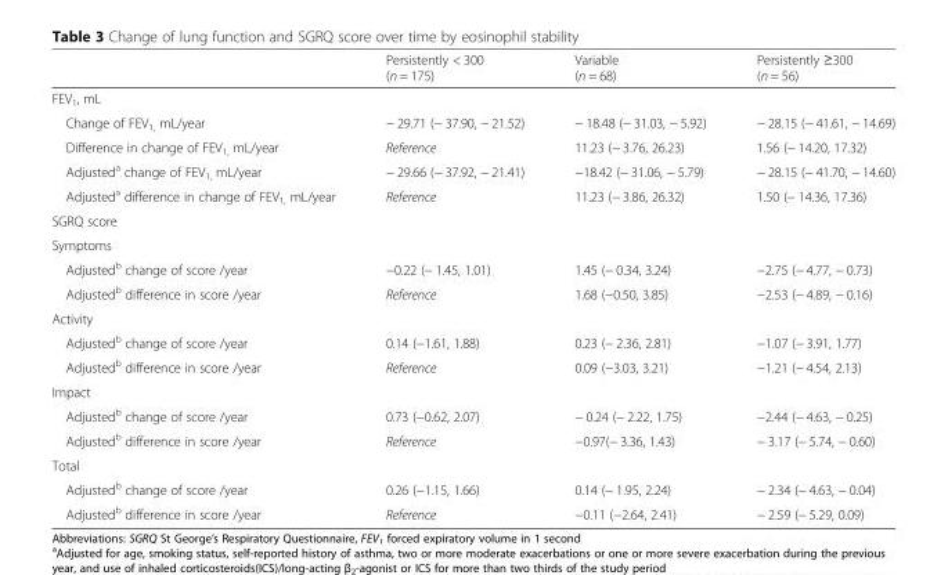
<table><thead><tr><td></td><td>Persistently &lt; 300 (n = 175)</td><td>Variable (n = 68)</td><td>Persistently ≥300 (n = 56)</td></tr></thead><tbody><tr><td colspan="4">FEV<sub>1</sub>, mL</td></tr><tr><td>Change of FEV<sub>1,</sub> mL/year</td><td>− 29.71 (− 37.90, − 21.52)</td><td>− 18.48 (− 31.03, − 5.92)</td><td>− 28.15 (− 41.61, − 14.69)</td></tr><tr><td>Difference in change of FEV<sub>1,</sub> mL/year</td><td>Reference</td><td>11.23 (− 3.76, 26.23)</td><td>1.56 (− 14.20, 17.32)</td></tr><tr><td>Adjusted<sup>a</sup> change of FEV<sub>1,</sub> mL/year</td><td>− 29.66 (− 37.92, − 21.41)</td><td>−18.42 (− 31.06, − 5.79)</td><td>− 28.15 (− 41.70, − 14.60)</td></tr><tr><td>Adjusted<sup>a</sup> difference in change of FEV<sub>1,</sub> mL/year</td><td>Reference</td><td>11.23 (− 3.86, 26.32)</td><td>1.50 (− 14.36, 17.36)</td></tr><tr><td colspan="4">SGRQ score</td></tr><tr><td colspan="4">Symptoms</td></tr><tr><td>Adjusted<sup>b</sup> change of score /year</td><td>−0.22 (− 1.45, 1.01)</td><td>1.45 (− 0.34, 3.24)</td><td>−2.75 (− 4.77, − 0.73)</td></tr><tr><td>Adjusted<sup>b</sup> difference in score /year</td><td>Reference</td><td>1.68 (−0.50, 3.85)</td><td>−2.53 (− 4.89, − 0.16)</td></tr><tr><td colspan="4">Activity</td></tr><tr><td>Adjusted<sup>b</sup> change of score /year</td><td>0.14 (−1.61, 1.88)</td><td>0.23 (− 2.36, 2.81)</td><td>−1.07 (− 3.91, 1.77)</td></tr><tr><td>Adjusted<sup>b</sup> difference in score /year</td><td>Reference</td><td>0.09 (−3.03, 3.21)</td><td>−1.21 (− 4.54, 2.13)</td></tr><tr><td colspan="4">Impact</td></tr><tr><td>Adjusted<sup>b</sup> change of score /year</td><td>0.73 (−0.62, 2.07)</td><td>− 0.24 (− 2.22, 1.75)</td><td>−2.44 (− 4.63, − 0.25)</td></tr><tr><td>Adjusted<sup>b</sup> difference in score /year</td><td>Reference</td><td>−0.97(− 3.36, 1.43)</td><td>− 3.17 (− 5.74, − 0.60)</td></tr><tr><td colspan="4">Total</td></tr><tr><td>Adjusted<sup>b</sup> change of score /year</td><td>0.26 (−1.15, 1.66)</td><td>0.14 (− 1.95, 2.24)</td><td>− 2.34 (− 4.63, − 0.04)</td></tr><tr><td>Adjusted<sup>b</sup> difference in score /year</td><td>Reference</td><td>−0.11 (−2.64, 2.41)</td><td>− 2.59 (− 5.29, 0.09)</td></tr></tbody></table>